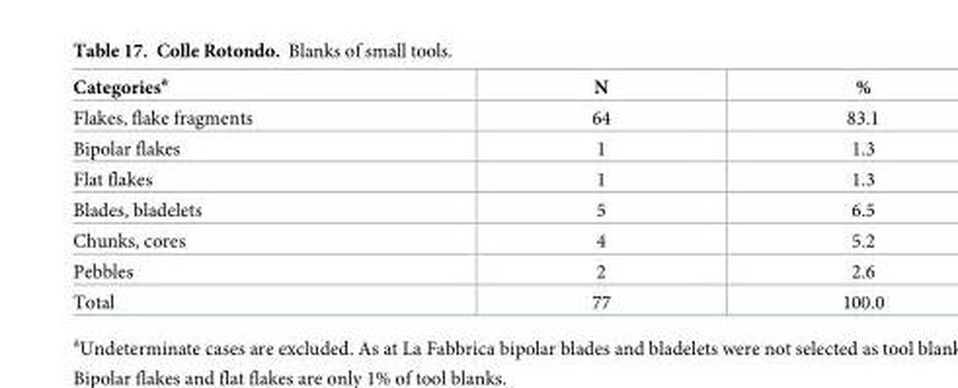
<table><thead><tr><td>Categories<sup>a</sup></td><td>N</td><td>%</td></tr></thead><tbody><tr><td>Flakes, flake fragments</td><td>64</td><td>83.1</td></tr><tr><td>Bipolar flakes</td><td>1</td><td>1.3</td></tr><tr><td>Flat flakes</td><td>1</td><td>1.3</td></tr><tr><td>Blades, bladelets</td><td>5</td><td>6.5</td></tr><tr><td>Chunks, cores</td><td>4</td><td>5.2</td></tr><tr><td>Pebbles</td><td>2</td><td>2.6</td></tr><tr><td>Total</td><td>77</td><td>100.0</td></tr></tbody></table>